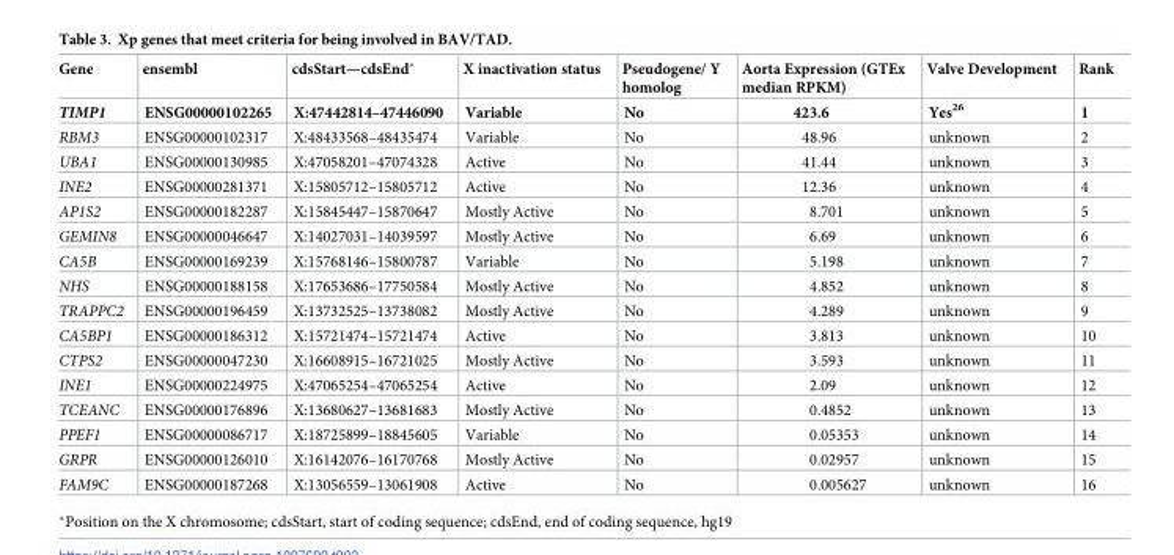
<table><thead><tr><td>Gene</td><td>ensembl</td><td>cdsStart—cdsEnd*</td><td>X inactivation status</td><td>Pseudogene/ Y homolog</td><td>Aorta Expression (GTEx median RPKM)</td><td>Valve Development</td><td>Rank</td></tr></thead><tbody><tr><td>TIMP1</td><td>ENSG00000102265</td><td>X:47442814–47446090</td><td>Variable</td><td>No</td><td>423.6</td><td>Yes<sup>26</sup></td><td>1</td></tr><tr><td>RBM3</td><td>ENSG00000102317</td><td>X:48433568–48435474</td><td>Variable</td><td>No</td><td>48.96</td><td>unknown</td><td>2</td></tr><tr><td>UBA1</td><td>ENSG00000130985</td><td>X:47058201–47074328</td><td>Active</td><td>No</td><td>41.44</td><td>unknown</td><td>3</td></tr><tr><td>INE2</td><td>ENSG00000281371</td><td>X:15805712–15805712</td><td>Active</td><td>No</td><td>12.36</td><td>unknown</td><td>4</td></tr><tr><td>AP1S2</td><td>ENSG00000182287</td><td>X:15845447–15870647</td><td>Mostly Active</td><td>No</td><td>8.701</td><td>unknown</td><td>5</td></tr><tr><td>GEMIN8</td><td>ENSG00000046647</td><td>X:14027031–14039597</td><td>Mostly Active</td><td>No</td><td>6.69</td><td>unknown</td><td>6</td></tr><tr><td>CA5B</td><td>ENSG00000169239</td><td>X:15768146–15800787</td><td>Variable</td><td>No</td><td>5.198</td><td>unknown</td><td>7</td></tr><tr><td>NHS</td><td>ENSG00000188158</td><td>X:17653686–17750584</td><td>Mostly Active</td><td>No</td><td>4.852</td><td>unknown</td><td>8</td></tr><tr><td>TRAPPC2</td><td>ENSG00000196459</td><td>X:13732525–13738082</td><td>Mostly Active</td><td>No</td><td>4.289</td><td>unknown</td><td>9</td></tr><tr><td>CA5BP1</td><td>ENSG00000186312</td><td>X:15721474–15721474</td><td>Active</td><td>No</td><td>3.813</td><td>unknown</td><td>10</td></tr><tr><td>CTPS2</td><td>ENSG00000047230</td><td>X:16608915–16721025</td><td>Mostly Active</td><td>No</td><td>3.593</td><td>unknown</td><td>11</td></tr><tr><td>INE1</td><td>ENSG00000224975</td><td>X:47065254–47065254</td><td>Active</td><td>No</td><td>2.09</td><td>unknown</td><td>12</td></tr><tr><td>TCEANC</td><td>ENSG00000176896</td><td>X:13680627–13681683</td><td>Mostly Active</td><td>No</td><td>0.4852</td><td>unknown</td><td>13</td></tr><tr><td>PPEF1</td><td>ENSG00000086717</td><td>X:18725899–18845605</td><td>Variable</td><td>No</td><td>0.05353</td><td>unknown</td><td>14</td></tr><tr><td>GRPR</td><td>ENSG00000126010</td><td>X:16142076–16170768</td><td>Mostly Active</td><td>No</td><td>0.02957</td><td>unknown</td><td>15</td></tr><tr><td>FAM9C</td><td>ENSG00000187268</td><td>X:13056559–13061908</td><td>Active</td><td>No</td><td>0.005627</td><td>unknown</td><td>16</td></tr></tbody></table>